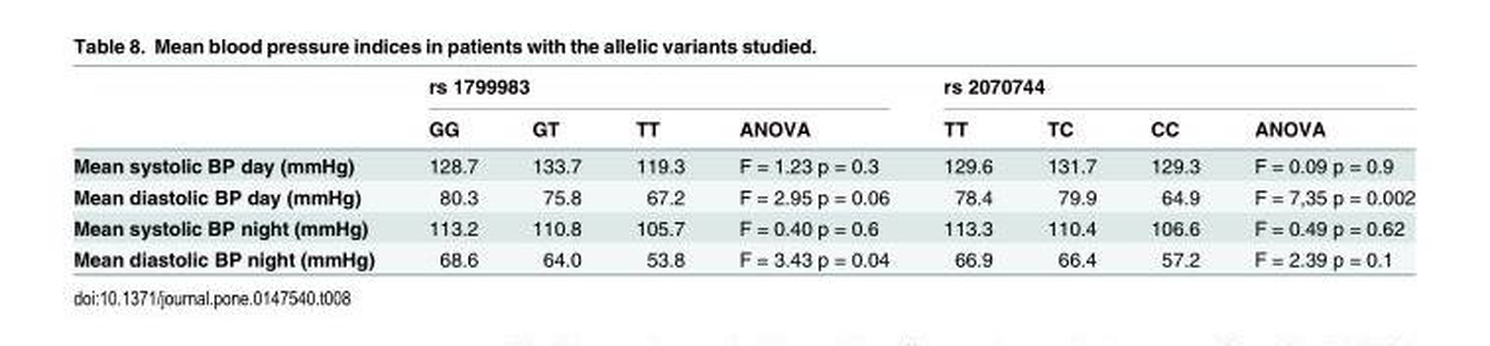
<table><thead><tr><td rowspan="2"></td><td colspan="4">rs 1799983</td><td colspan="4">rs 2070744</td></tr><tr><td>GG</td><td>GT</td><td>TT</td><td>ANOVA</td><td>TT</td><td>TC</td><td>CC</td><td>ANOVA</td></tr></thead><tbody><tr><td>Mean systolic BP day (mmHg)</td><td>128.7</td><td>133.7</td><td>119.3</td><td>F = 1.23 p = 0.3</td><td>129.6</td><td>131.7</td><td>129.3</td><td>F = 0.09 p = 0.9</td></tr><tr><td>Mean diastolic BP day (mmHg)</td><td>80.3</td><td>75.8</td><td>67.2</td><td>F = 2.95 p = 0.06</td><td>78.4</td><td>79.9</td><td>64.9</td><td>F = 7,35 p = 0.002</td></tr><tr><td>Mean systolic BP night (mmHg)</td><td>113.2</td><td>110.8</td><td>105.7</td><td>F = 0.40 p = 0.6</td><td>113.3</td><td>110.4</td><td>106.6</td><td>F = 0.49 p = 0.62</td></tr><tr><td>Mean diastolic BP night (mmHg)</td><td>68.6</td><td>64.0</td><td>53.8</td><td>F = 3.43 p = 0.04</td><td>66.9</td><td>66.4</td><td>57.2</td><td>F = 2.39 p = 0.1</td></tr></tbody></table>